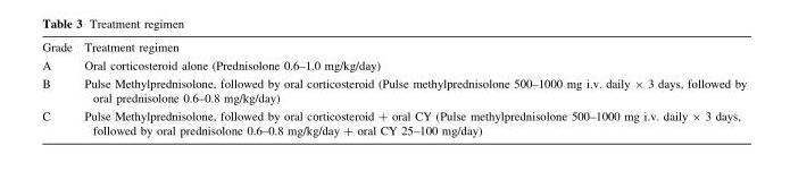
<table><tbody><tr><td>Grade</td><td>Treatment regimen</td></tr><tr><td>A</td><td>Oral corticosteroid alone (Prednisolone 0.6–1.0 mg/kg/day)</td></tr><tr><td>B</td><td>Pulse Methylprednisolone, followed by oral corticosteroid (Pulse methylprednisolone 500–1000 mg i.v. daily × 3 days, followed by oral prednisolone 0.6–0.8 mg/kg/day)</td></tr><tr><td>C</td><td>Pulse Methylprednisolone, followed by oral corticosteroid + oral CY (Pulse methylprednisolone 500–1000 mg i.v. daily × 3 days, followed by oral prednisolone 0.6–0.8 mg/kg/day + oral CY 25–100 mg/day)</td></tr></tbody></table>